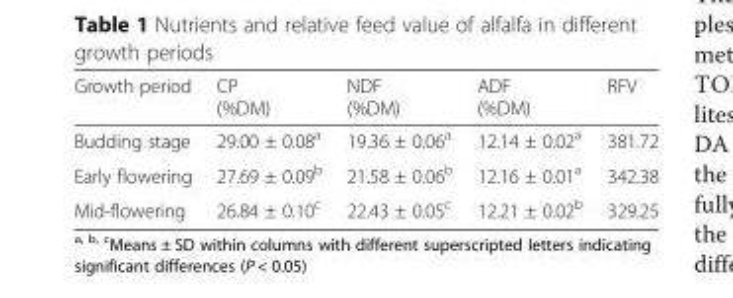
<table><thead><tr><td>Growth period</td><td>CP (%DM)</td><td>NDF (%DM)</td><td>ADF (%DM)</td><td>RFV</td></tr></thead><tbody><tr><td>Budding stage</td><td>29.00 ± 0.08<sup>a</sup></td><td>19.36 ± 0.06<sup>a</sup></td><td>12.14 ± 0.02<sup>a</sup></td><td>381.72</td></tr><tr><td>Early flowering</td><td>27.69 ± 0.09<sup>b</sup></td><td>21.58 ± 0.06<sup>b</sup></td><td>12.16 ± 0.01<sup>a</sup></td><td>342.38</td></tr><tr><td>Mid-flowering</td><td>26.84 ± 0.10<sup>c</sup></td><td>22.43 ± 0.05<sup>c</sup></td><td>12.21 ± 0.02<sup>b</sup></td><td>329.25</td></tr></tbody></table>